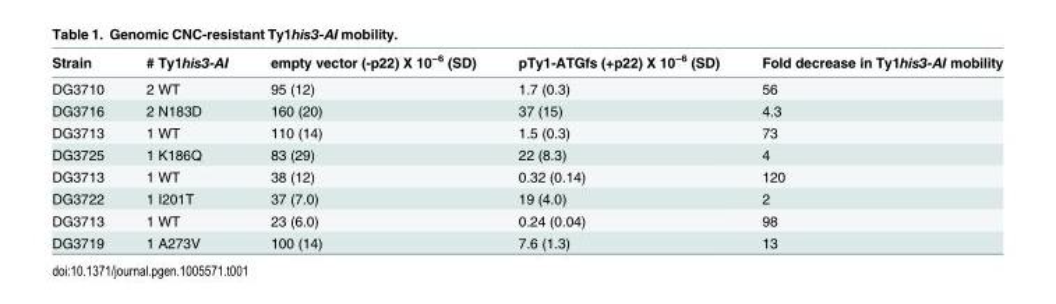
<table><thead><tr><td>Strain</td><td># Ty1his3-AI</td><td>empty vector (-p22) X 10<sup>−6</sup> (SD)</td><td>pTy1-ATGfs (+p22) X 10<sup>−6</sup> (SD)</td><td>Fold decrease in Ty1his3-AI mobility</td></tr></thead><tbody><tr><td>DG3710</td><td>2 WT</td><td>95 (12)</td><td>1.7 (0.3)</td><td>56</td></tr><tr><td>DG3716</td><td>2 N183D</td><td>160 (20)</td><td>37 (15)</td><td>4.3</td></tr><tr><td>DG3713</td><td>1 WT</td><td>110 (14)</td><td>1.5 (0.3)</td><td>73</td></tr><tr><td>DG3725</td><td>1 K186Q</td><td>83 (29)</td><td>22 (8.3)</td><td>4</td></tr><tr><td>DG3713</td><td>1 WT</td><td>38 (12)</td><td>0.32 (0.14)</td><td>120</td></tr><tr><td>DG3722</td><td>1 I201T</td><td>37 (7.0)</td><td>19 (4.0)</td><td>2</td></tr><tr><td>DG3713</td><td>1 WT</td><td>23 (6.0)</td><td>0.24 (0.04)</td><td>98</td></tr><tr><td>DG3719</td><td>1 A273V</td><td>100 (14)</td><td>7.6 (1.3)</td><td>13</td></tr></tbody></table>